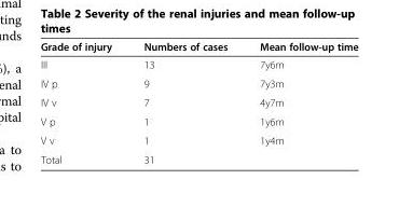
<table><thead><tr><td>Grade of injury</td><td>Numbers of cases</td><td>Mean follow-up time</td></tr></thead><tbody><tr><td>III</td><td>13</td><td>7y6m</td></tr><tr><td>IV p</td><td>9</td><td>7y3m</td></tr><tr><td>IV v</td><td>7</td><td>4y7m</td></tr><tr><td>V p</td><td>1</td><td>1y6m</td></tr><tr><td>V v</td><td>1</td><td>1y4m</td></tr><tr><td>Total</td><td>31</td><td></td></tr></tbody></table>